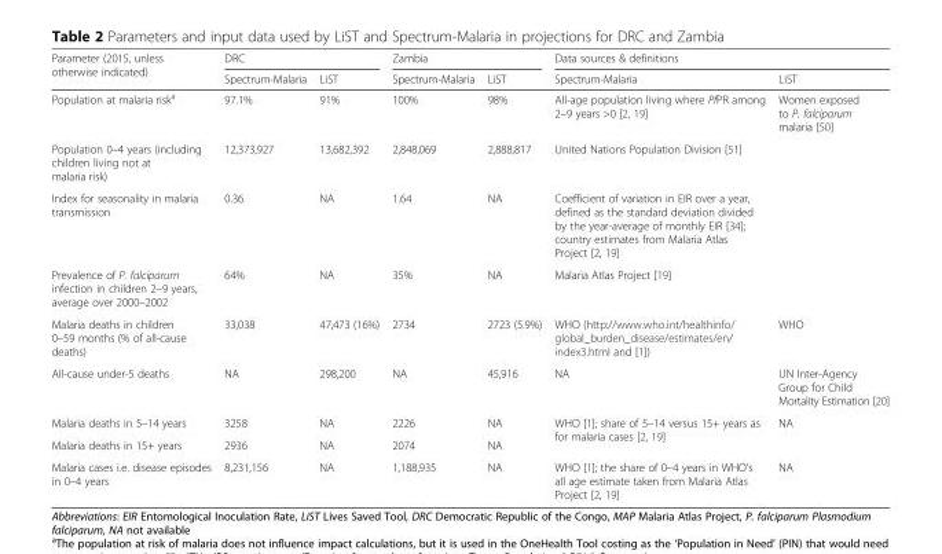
<table><thead><tr><td rowspan="2">Parameter (2015, unless otherwise indicated)</td><td colspan="2">DRC</td><td colspan="2">Zambia</td><td colspan="2">Data sources &amp; definitions</td></tr><tr><td>Spectrum-Malaria</td><td>LiST</td><td>Spectrum-Malaria</td><td>LiST</td><td>Spectrum-Malaria</td><td>LiST</td></tr></thead><tbody><tr><td>Population at malaria risk<sup>a</sup></td><td>97.1%</td><td>91%</td><td>100%</td><td>98%</td><td>All-age population living where PfPR among 2–9 years &gt;0 [2, 19]</td><td>Women exposed to P. falciparum malaria [50]</td></tr><tr><td>Population 0–4 years (including children living not at malaria risk)</td><td>12,373,927</td><td>13,682,392</td><td>2,848,069</td><td>2,888,817</td><td colspan="2">United Nations Population Division [51]</td></tr><tr><td>Index for seasonality in malaria transmission</td><td>0.36</td><td>NA</td><td>1.64</td><td>NA</td><td colspan="2">Coefficient of variation in EIR over a year, defined as the standard deviation divided by the year-average of monthly EIR [34]; country estimates from Malaria Atlas Project [2, 19]</td></tr><tr><td>Prevalence of P. falciparum infection in children 2–9 years, average over 2000–2002</td><td>64%</td><td>NA</td><td>35%</td><td>NA</td><td>Malaria Atlas Project [19]</td><td></td></tr><tr><td>Malaria deaths in children 0–59 months (% of all-cause deaths)</td><td>33,038</td><td>47,473 (16%)</td><td>2734</td><td>2723 (5.9%)</td><td>WHO (http://www.who.int/healthinfo/ global_burden_disease/estimates/en/ index3.html and [1])</td><td>WHO</td></tr><tr><td>All-cause under-5 deaths</td><td>NA</td><td>298,200</td><td>NA</td><td>45,916</td><td>NA</td><td>UN Inter-Agency Group for Child Mortality Estimation [20]</td></tr><tr><td>Malaria deaths in 5–14 years</td><td>3258</td><td>NA</td><td>2226</td><td>NA</td><td rowspan="2">WHO [1]; share of 5–14 versus 15+ years as for malaria cases [2, 19]</td><td>NA</td></tr><tr><td>Malaria deaths in 15+ years</td><td>2936</td><td>NA</td><td>2074</td><td>NA</td><td></td></tr><tr><td>Malaria cases i.e. disease episodes in 0–4 years</td><td>8,231,156</td><td>NA</td><td>1,188,935</td><td>NA</td><td>WHO [1]; the share of 0–4 years in WHO’s all age estimate taken from Malaria Atlas Project [2, 19]</td><td>NA</td></tr></tbody></table>